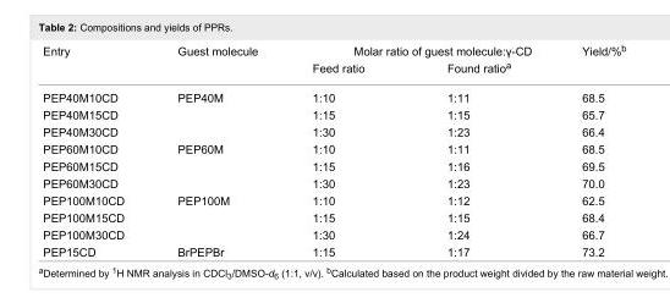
<table><tbody><tr><td rowspan="2">Entry</td><td rowspan="2">Guest molecule</td><td colspan="2">Molar ratio of guest molecule:γ-CD</td><td rowspan="2">Yield/%<sup>b</sup></td></tr><tr><td>Feed ratio</td><td>Found ratio<sup>a</sup></td></tr><tr><td>PEP40M10CD</td><td rowspan="3">PEP40M</td><td>1:10</td><td>1:11</td><td>68.5</td></tr><tr><td>PEP40M15CD</td><td>1:15</td><td>1:15</td><td>65.7</td></tr><tr><td>PEP40M30CD</td><td>1:30</td><td>1:23</td><td>66.4</td></tr><tr><td>PEP60M10CD</td><td rowspan="3">PEP60M</td><td>1:10</td><td>1:11</td><td>68.5</td></tr><tr><td>PEP60M15CD</td><td>1:15</td><td>1:16</td><td>69.5</td></tr><tr><td>PEP60M30CD</td><td>1:30</td><td>1:23</td><td>70.0</td></tr><tr><td>PEP100M10CD</td><td rowspan="3">PEP100M</td><td>1:10</td><td>1:12</td><td>62.5</td></tr><tr><td>PEP100M15CD</td><td>1:15</td><td>1:15</td><td>68.4</td></tr><tr><td>PEP100M30CD</td><td>1:30</td><td>1:24</td><td>66.7</td></tr><tr><td>PEP15CD</td><td>BrPEPBr</td><td>1:15</td><td>1:17</td><td>73.2</td></tr></tbody></table>